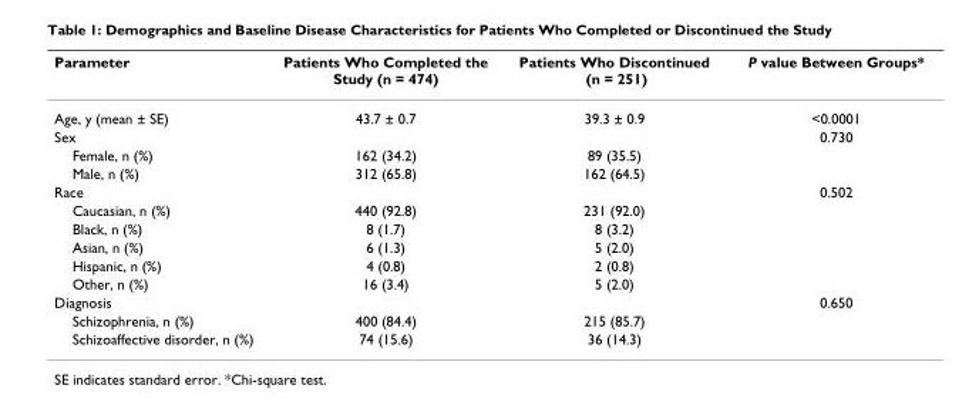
<table><thead><tr><td>Parameter</td><td>Patients Who Completed the Study (n = 474)</td><td>Patients Who Discontinued (n = 251)</td><td>P value Between Groups*</td></tr></thead><tbody><tr><td>Age, y (mean ± SE)</td><td>43.7 ± 0.7</td><td>39.3 ± 0.9</td><td>&lt;0.0001</td></tr><tr><td>Sex</td><td></td><td></td><td>0.730</td></tr><tr><td>Female, n (%)</td><td>162 (34.2)</td><td>89 (35.5)</td><td></td></tr><tr><td>Male, n (%)</td><td>312 (65.8)</td><td>162 (64.5)</td><td></td></tr><tr><td>Race</td><td></td><td></td><td>0.502</td></tr><tr><td>Caucasian, n (%)</td><td>440 (92.8)</td><td>231 (92.0)</td><td></td></tr><tr><td>Black, n (%)</td><td>8 (1.7)</td><td>8 (3.2)</td><td></td></tr><tr><td>Asian, n (%)</td><td>6 (1.3)</td><td>5 (2.0)</td><td></td></tr><tr><td>Hispanic, n (%)</td><td>4 (0.8)</td><td>2 (0.8)</td><td></td></tr><tr><td>Other, n (%)</td><td>16 (3.4)</td><td>5 (2.0)</td><td></td></tr><tr><td>Diagnosis</td><td></td><td></td><td>0.650</td></tr><tr><td>Schizophrenia, n (%)</td><td>400 (84.4)</td><td>215 (85.7)</td><td></td></tr><tr><td>Schizoaffective disorder, n (%)</td><td>74 (15.6)</td><td>36 (14.3)</td><td></td></tr></tbody></table>